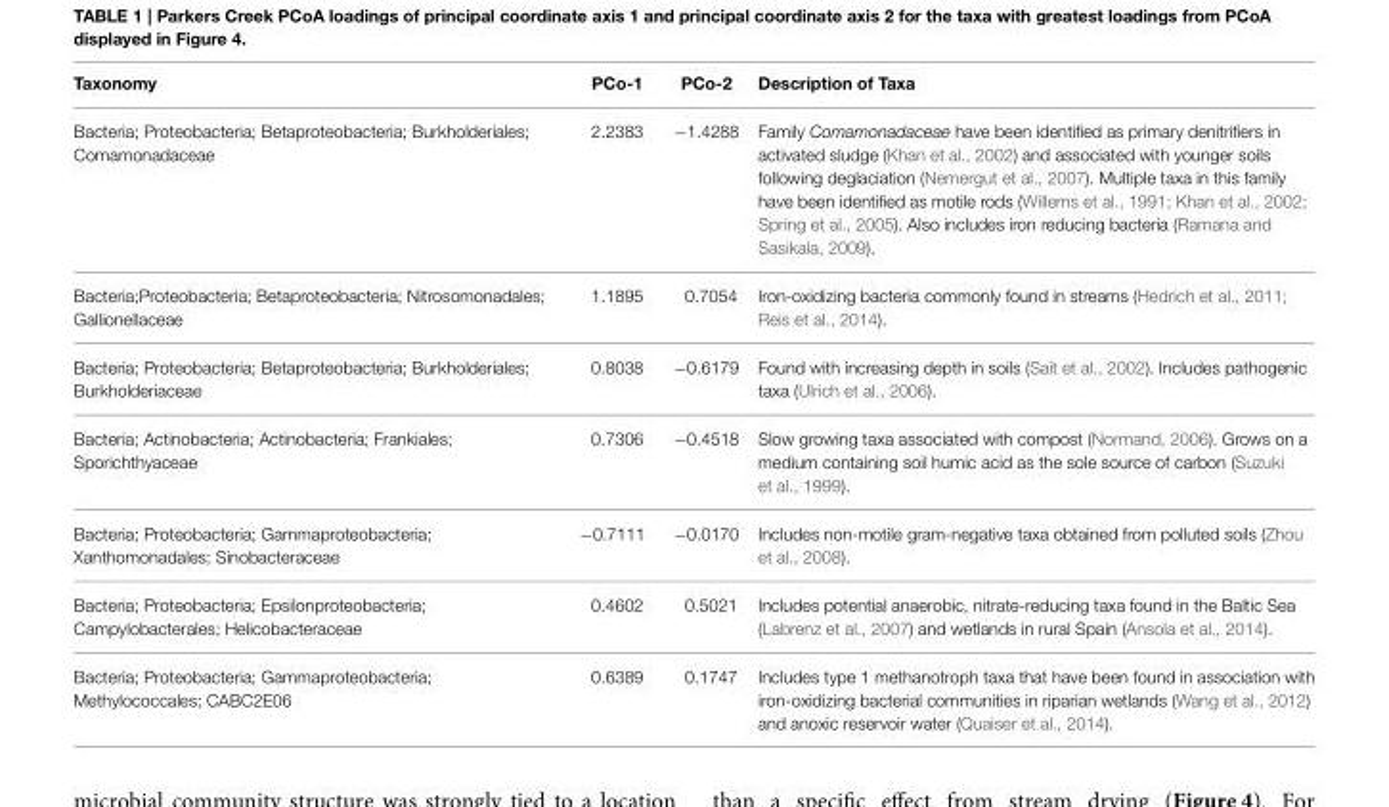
<table><thead><tr><td>Taxonomy</td><td>PCo-1</td><td>PCo-2</td><td>Description of Taxa</td></tr></thead><tbody><tr><td>Bacteria; Proteobacteria; Betaproteobacteria; Burkholderiales; Comamonadaceae</td><td>2.2383</td><td>−1.4288</td><td>Family Comamonadaceae have been identified as primary denitrifiers in activated sludge (Khan et al., 2002) and associated with younger soils following deglaciation (Nemergut et al., 2007). Multiple taxa in this family have been identified as motile rods (Willems et al., 1991; Khan et al., 2002; Spring et al., 2005). Also includes iron reducing bacteria (Ramana and Sasikala, 2009).</td></tr><tr><td>Bacteria;Proteobacteria; Betaproteobacteria; Nitrosomonadales; Gallionellaceae</td><td>1.1895</td><td>0.7054</td><td>Iron-oxidizing bacteria commonly found in streams (Hedrich et al., 2011; Reis et al., 2014).</td></tr><tr><td>Bacteria; Proteobacteria; Betaproteobacteria; Burkholderiales; Burkholderiaceae</td><td>0.8038</td><td>−0.6179</td><td>Found with increasing depth in soils (Sait et al., 2002). Includes pathogenic taxa (Ulrich et al., 2006).</td></tr><tr><td>Bacteria; Actinobacteria; Actinobacteria; Frankiales; Sporichthyaceae</td><td>0.7306</td><td>−0.4518</td><td>Slow growing taxa associated with compost (Normand, 2006). Grows on a medium containing soil humic acid as the sole source of carbon (Suzuki et al., 1999).</td></tr><tr><td>Bacteria; Proteobacteria; Gammaproteobacteria; Xanthomonadales; Sinobacteraceae</td><td>−0.7111</td><td>−0.0170</td><td>Includes non-motile gram-negative taxa obtained from polluted soils (Zhou et al., 2008).</td></tr><tr><td>Bacteria; Proteobacteria; Epsilonproteobacteria; Campylobacterales; Helicobacteraceae</td><td>0.4602</td><td>0.5021</td><td>Includes potential anaerobic, nitrate-reducing taxa found in the Baltic Sea (Labrenz et al., 2007) and wetlands in rural Spain (Ansola et al., 2014).</td></tr><tr><td>Bacteria; Proteobacteria; Gammaproteobacteria; Methylococcales; CABC2E06</td><td>0.6389</td><td>0.1747</td><td>Includes type 1 methanotroph taxa that have been found in association with iron-oxidizing bacterial communities in riparian wetlands (Wang et al., 2012) and anoxic reservoir water (Quaiser et al., 2014).</td></tr></tbody></table>